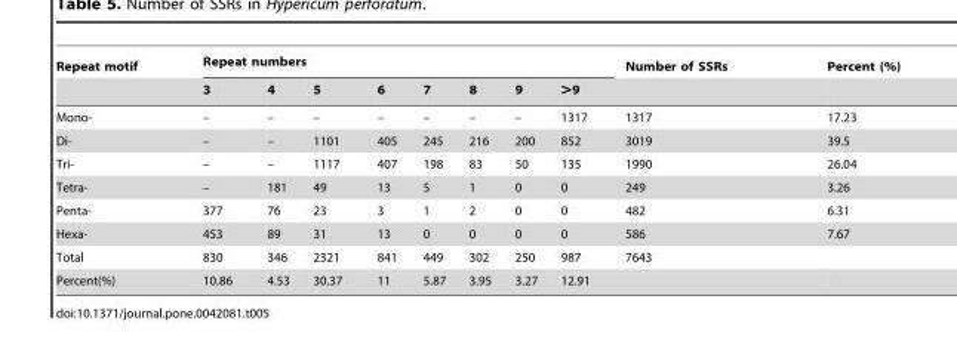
<table><thead><tr><td rowspan="2">Repeat motif</td><td colspan="8">Repeat numbers</td><td rowspan="2">Number of SSRs</td><td rowspan="2">Percent (%)</td></tr><tr><td>3</td><td>4</td><td>5</td><td>6</td><td>7</td><td>8</td><td>9</td><td>&gt;9</td></tr></thead><tbody><tr><td>Mono-</td><td>–</td><td>–</td><td>–</td><td>–</td><td>–</td><td>–</td><td>–</td><td>1317</td><td>1317</td><td>17.23</td></tr><tr><td>Di-</td><td>–</td><td>–</td><td>1101</td><td>405</td><td>245</td><td>216</td><td>200</td><td>852</td><td>3019</td><td>39.5</td></tr><tr><td>Tri-</td><td>–</td><td>–</td><td>1117</td><td>407</td><td>198</td><td>83</td><td>50</td><td>135</td><td>1990</td><td>26.04</td></tr><tr><td>Tetra-</td><td>–</td><td>181</td><td>49</td><td>13</td><td>5</td><td>1</td><td>0</td><td>0</td><td>249</td><td>3.26</td></tr><tr><td>Penta-</td><td>377</td><td>76</td><td>23</td><td>3</td><td>1</td><td>2</td><td>0</td><td>0</td><td>482</td><td>6.31</td></tr><tr><td>Hexa-</td><td>453</td><td>89</td><td>31</td><td>13</td><td>0</td><td>0</td><td>0</td><td>0</td><td>586</td><td>7.67</td></tr><tr><td>Total</td><td>830</td><td>346</td><td>2321</td><td>841</td><td>449</td><td>302</td><td>250</td><td>987</td><td>7643</td><td></td></tr><tr><td>Percent(%)</td><td>10.86</td><td>4.53</td><td>30.37</td><td>11</td><td>5.87</td><td>3.95</td><td>3.27</td><td>12.91</td><td></td><td></td></tr></tbody></table>